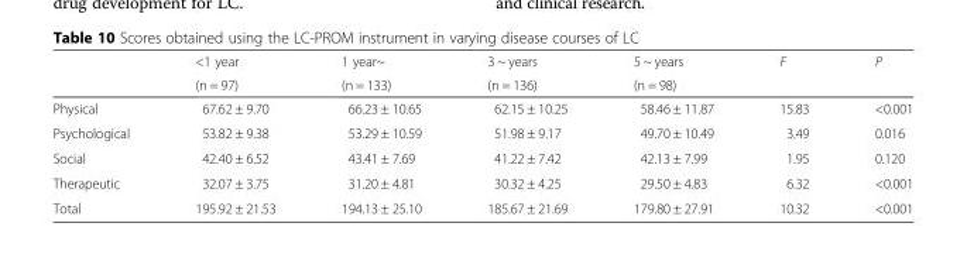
<table><thead><tr><td rowspan="2"></td><td rowspan="2">&lt;1 year (n = 97)</td><td rowspan="2">1 year~ (n = 133)</td><td rowspan="2">3 ~ years (n = 136)</td><td rowspan="2">5 ~ years (n = 98)</td><td rowspan="2">F</td><td rowspan="2">P</td></tr><tr></tr></thead><tbody><tr><td>Physical</td><td>67.62 ± 9.70</td><td>66.23 ± 10.65</td><td>62.15 ± 10.25</td><td>58.46 ± 11.87</td><td>15.83</td><td>&lt;0.001</td></tr><tr><td>Psychological</td><td>53.82 ± 9.38</td><td>53.29 ± 10.59</td><td>51.98 ± 9.17</td><td>49.70 ± 10.49</td><td>3.49</td><td>0.016</td></tr><tr><td>Social</td><td>42.40 ± 6.52</td><td>43.41 ± 7.69</td><td>41.22 ± 7.42</td><td>42.13 ± 7.99</td><td>1.95</td><td>0.120</td></tr><tr><td>Therapeutic</td><td>32.07 ± 3.75</td><td>31.20 ± 4.81</td><td>30.32 ± 4.25</td><td>29.50 ± 4.83</td><td>6.32</td><td>&lt;0.001</td></tr><tr><td>Total</td><td>195.92 ± 21.53</td><td>194.13 ± 25.10</td><td>185.67 ± 21.69</td><td>179.80 ± 27.91</td><td>10.32</td><td>&lt;0.001</td></tr></tbody></table>